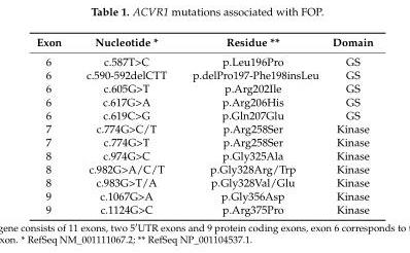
<table><thead><tr><td>Exon</td><td>Nucleotide *</td><td>Residue **</td><td>Domain</td></tr></thead><tbody><tr><td>6</td><td>c.587T&gt;C</td><td>p.Leu196Pro</td><td>GS</td></tr><tr><td>6</td><td>c.590-592delCTT</td><td>p.delPro197-Phe198insLeu</td><td>GS</td></tr><tr><td>6</td><td>c.605G&gt;T</td><td>p.Arg202Ile</td><td>GS</td></tr><tr><td>6</td><td>c.617G&gt;A</td><td>p.Arg206His</td><td>GS</td></tr><tr><td>6</td><td>c.619C&gt;G</td><td>p.Gln207Glu</td><td>GS</td></tr><tr><td>7</td><td>c.774G&gt;C/T</td><td>p.Arg258Ser</td><td>Kinase</td></tr><tr><td>7</td><td>c.774G&gt;T</td><td>p.Arg258Ser</td><td>Kinase</td></tr><tr><td>8</td><td>c.974G&gt;C</td><td>p.Gly325Ala</td><td>Kinase</td></tr><tr><td>8</td><td>c.982G&gt;A/C/T</td><td>p.Gly328Arg/Trp</td><td>Kinase</td></tr><tr><td>8</td><td>c.983G&gt;T/A</td><td>p.Gly328Val/Glu</td><td>Kinase</td></tr><tr><td>9</td><td>c.1067G&gt;A</td><td>p.Gly356Asp</td><td>Kinase</td></tr><tr><td>9</td><td>c.1124G&gt;C</td><td>p.Arg375Pro</td><td>Kinase</td></tr></tbody></table>